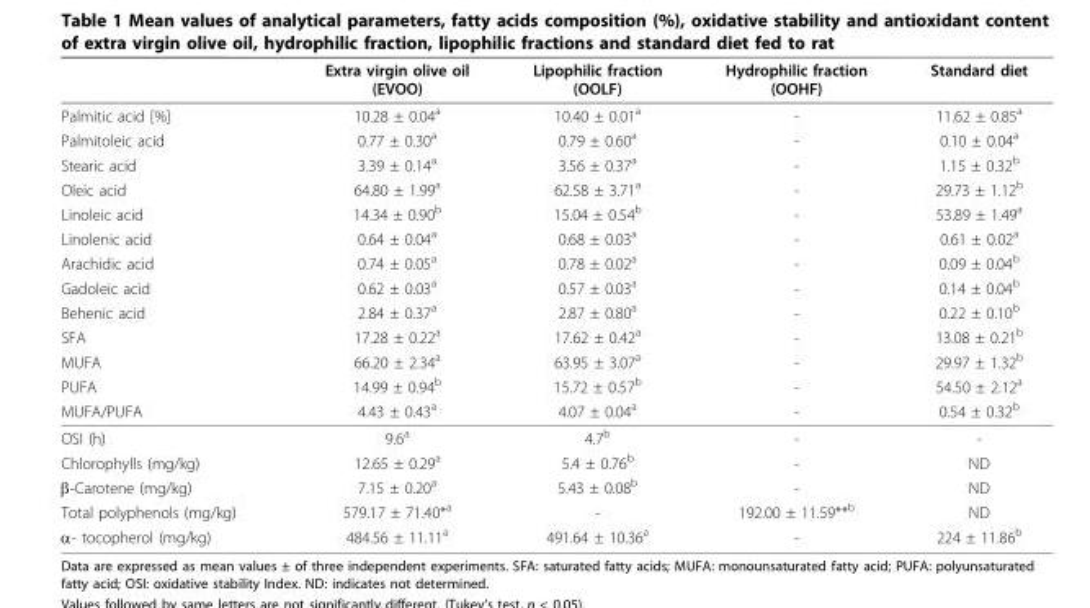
<table><thead><tr><td></td><td>Extra virgin olive oil (EVOO)</td><td>Lipophilic fraction (OOLF)</td><td>Hydrophilic fraction (OOHF)</td><td>Standard diet</td></tr></thead><tbody><tr><td>Palmitic acid [%]</td><td>10.28 ± 0.04<sup>a</sup></td><td>10.40 ± 0.01<sup>a</sup></td><td>-</td><td>11.62 ± 0.85<sup>a</sup></td></tr><tr><td>Palmitoleic acid</td><td>0.77 ± 0.30<sup>a</sup></td><td>0.79 ± 0.60<sup>a</sup></td><td>-</td><td>0.10 ± 0.04<sup>a</sup></td></tr><tr><td>Stearic acid</td><td>3.39 ± 0.14<sup>a</sup></td><td>3.56 ± 0.37<sup>a</sup></td><td>-</td><td>1.15 ± 0.32<sup>b</sup></td></tr><tr><td>Oleic acid</td><td>64.80 ± 1.99<sup>a</sup></td><td>62.58 ± 3.71<sup>a</sup></td><td>-</td><td>29.73 ± 1.12<sup>b</sup></td></tr><tr><td>Linoleic acid</td><td>14.34 ± 0.90<sup>b</sup></td><td>15.04 ± 0.54<sup>b</sup></td><td>-</td><td>53.89 ± 1.49<sup>a</sup></td></tr><tr><td>Linolenic acid</td><td>0.64 ± 0.04<sup>a</sup></td><td>0.68 ± 0.03<sup>a</sup></td><td>-</td><td>0.61 ± 0.02<sup>a</sup></td></tr><tr><td>Arachidic acid</td><td>0.74 ± 0.05<sup>a</sup></td><td>0.78 ± 0.02<sup>a</sup></td><td>-</td><td>0.09 ± 0.04<sup>b</sup></td></tr><tr><td>Gadoleic acid</td><td>0.62 ± 0.03<sup>a</sup></td><td>0.57 ± 0.03<sup>a</sup></td><td>-</td><td>0.14 ± 0.04<sup>b</sup></td></tr><tr><td>Behenic acid</td><td>2.84 ± 0.37<sup>a</sup></td><td>2.87 ± 0.80<sup>a</sup></td><td>-</td><td>0.22 ± 0.10<sup>b</sup></td></tr><tr><td>SFA</td><td>17.28 ± 0.22<sup>a</sup></td><td>17.62 ± 0.42<sup>a</sup></td><td>-</td><td>13.08 ± 0.21<sup>b</sup></td></tr><tr><td>MUFA</td><td>66.20 ± 2.34<sup>a</sup></td><td>63.95 ± 3.07<sup>a</sup></td><td>-</td><td>29.97 ± 1.32<sup>b</sup></td></tr><tr><td>PUFA</td><td>14.99 ± 0.94<sup>b</sup></td><td>15.72 ± 0.57<sup>b</sup></td><td>-</td><td>54.50 ± 2.12<sup>a</sup></td></tr><tr><td>MUFA/PUFA</td><td>4.43 ± 0.43<sup>a</sup></td><td>4.07 ± 0.04<sup>a</sup></td><td>-</td><td>0.54 ± 0.32<sup>b</sup></td></tr><tr><td>OSI (h)</td><td>9.6<sup>a</sup></td><td>4.7<sup>b</sup></td><td>-</td><td>-</td></tr><tr><td>Chlorophylls (mg/kg)</td><td>12.65 ± 0.29<sup>a</sup></td><td>5.4 ± 0.76<sup>b</sup></td><td>-</td><td>ND</td></tr><tr><td>β-Carotene (mg/kg)</td><td>7.15 ± 0.20<sup>a</sup></td><td>5.43 ± 0.08<sup>b</sup></td><td>-</td><td>ND</td></tr><tr><td>Total polyphenols (mg/kg)</td><td>579.17 ± 71.40*<sup>a</sup></td><td>-</td><td>192.00 ± 11.59**<sup>b</sup></td><td>ND</td></tr><tr><td>α- tocopherol (mg/kg)</td><td>484.56 ± 11.11<sup>a</sup></td><td>491.64 ± 10.36<sup>a</sup></td><td>-</td><td>224 ± 11.86<sup>b</sup></td></tr></tbody></table>